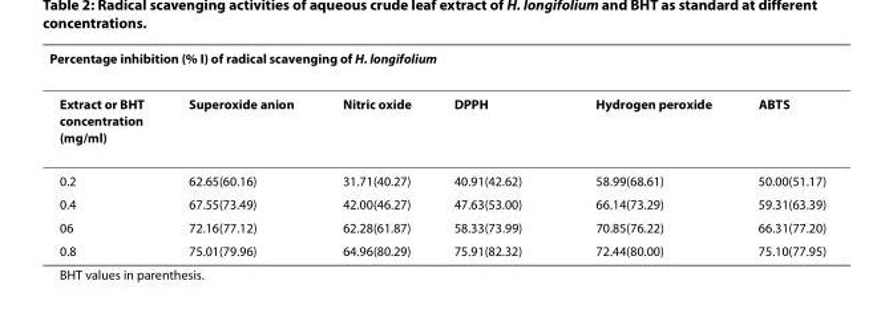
<table><thead><tr><td colspan="6">Percentage inhibition (% I) of radical scavenging of H. longifolium</td></tr><tr><td>Extract or BHT concentration (mg/ml)</td><td>Superoxide anion</td><td>Nitric oxide</td><td>DPPH</td><td>Hydrogen peroxide</td><td>ABTS</td></tr></thead><tbody><tr><td>0.2</td><td>62.65(60.16)</td><td>31.71(40.27)</td><td>40.91(42.62)</td><td>58.99(68.61)</td><td>50.00(51.17)</td></tr><tr><td>0.4</td><td>67.55(73.49)</td><td>42.00(46.27)</td><td>47.63(53.00)</td><td>66.14(73.29)</td><td>59.31(63.39)</td></tr><tr><td>06</td><td>72.16(77.12)</td><td>62.28(61.87)</td><td>58.33(73.99)</td><td>70.85(76.22)</td><td>66.31(77.20)</td></tr><tr><td>0.8</td><td>75.01(79.96)</td><td>64.96(80.29)</td><td>75.91(82.32)</td><td>72.44(80.00)</td><td>75.10(77.95)</td></tr></tbody></table>